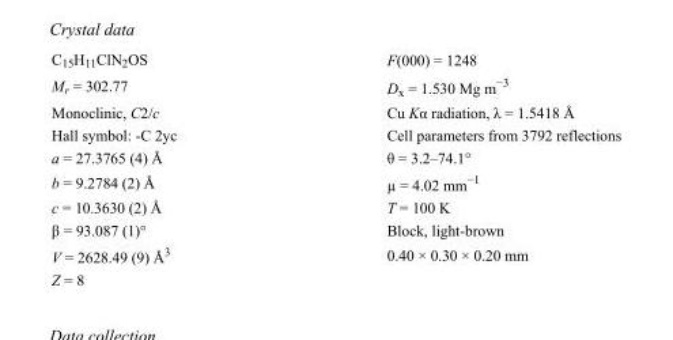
<table><tbody><tr><td>C<sub>15</sub>H<sub>11</sub>ClN<sub>2</sub>OS</td><td>F(000) = 1248</td></tr><tr><td>M<sub>r</sub> = 302.77</td><td>D<sub>x</sub> = 1.530 Mg m<sup>−3</sup></td></tr><tr><td>Monoclinic, C2/c</td><td>Cu Kα radiation, λ = 1.5418 Å</td></tr><tr><td>Hall symbol: -C 2yc</td><td>Cell parameters from 3792 reflections</td></tr><tr><td>a = 27.3765 (4) Å</td><td>θ = 3.2–74.1°</td></tr><tr><td>b = 9.2784 (2) Å</td><td>µ = 4.02 mm<sup>−1</sup></td></tr><tr><td>c = 10.3630 (2) Å</td><td>T = 100 K</td></tr><tr><td>β = 93.087 (1)°</td><td>Block, light-brown</td></tr><tr><td>V = 2628.49 (9) Å<sup>3</sup></td><td>0.40 × 0.30 × 0.20 mm</td></tr><tr><td>Z = 8</td><td></td></tr></tbody></table>